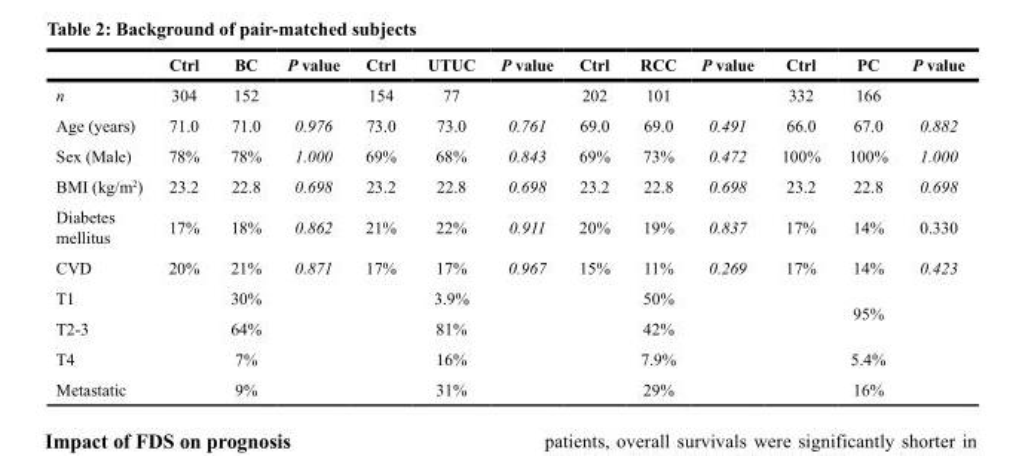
<table><thead><tr><td></td><td>Ctrl</td><td>BC</td><td>P value</td><td>Ctrl</td><td>UTUC</td><td>P value</td><td>Ctrl</td><td>RCC</td><td>P value</td><td>Ctrl</td><td>PC</td><td>P value</td></tr></thead><tbody><tr><td>n</td><td>304</td><td>152</td><td></td><td>154</td><td>77</td><td></td><td>202</td><td>101</td><td></td><td>332</td><td>166</td><td></td></tr><tr><td>Age (years)</td><td>71.0</td><td>71.0</td><td>0.976</td><td>73.0</td><td>73.0</td><td>0.761</td><td>69.0</td><td>69.0</td><td>0.491</td><td>66.0</td><td>67.0</td><td>0.882</td></tr><tr><td>Sex (Male)</td><td>78%</td><td>78%</td><td>1.000</td><td>69%</td><td>68%</td><td>0.843</td><td>69%</td><td>73%</td><td>0.472</td><td>100%</td><td>100%</td><td>1.000</td></tr><tr><td>BMI (kg/m<sup>2</sup>)</td><td>23.2</td><td>22.8</td><td>0.698</td><td>23.2</td><td>22.8</td><td>0.698</td><td>23.2</td><td>22.8</td><td>0.698</td><td>23.2</td><td>22.8</td><td>0.698</td></tr><tr><td>Diabetes mellitus</td><td>17%</td><td>18%</td><td>0.862</td><td>21%</td><td>22%</td><td>0.911</td><td>20%</td><td>19%</td><td>0.837</td><td>17%</td><td>14%</td><td>0.330</td></tr><tr><td>CVD</td><td>20%</td><td>21%</td><td>0.871</td><td>17%</td><td>17%</td><td>0.967</td><td>15%</td><td>11%</td><td>0.269</td><td>17%</td><td>14%</td><td>0.423</td></tr><tr><td>T1</td><td></td><td>30%</td><td></td><td></td><td>3.9%</td><td></td><td></td><td>50%</td><td></td><td></td><td rowspan="2">95%</td><td></td></tr><tr><td>T2-3</td><td></td><td>64%</td><td></td><td></td><td>81%</td><td></td><td></td><td>42%</td><td></td><td></td><td></td></tr><tr><td>T4</td><td></td><td>7%</td><td></td><td></td><td>16%</td><td></td><td></td><td>7.9%</td><td></td><td></td><td>5.4%</td><td></td></tr><tr><td>Metastatic</td><td></td><td>9%</td><td></td><td></td><td>31%</td><td></td><td></td><td>29%</td><td></td><td></td><td>16%</td><td></td></tr></tbody></table>